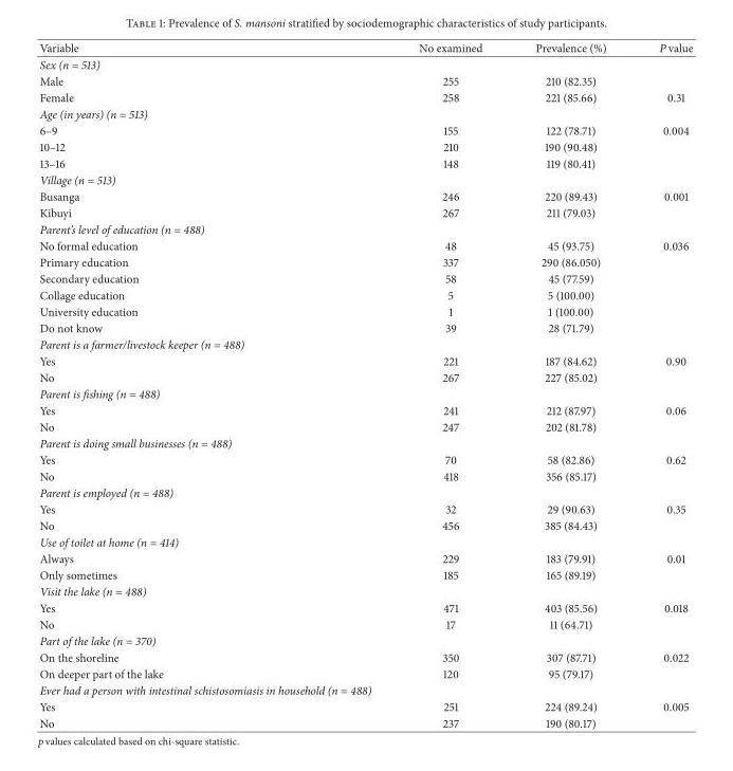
<table><thead><tr><td>Variable</td><td>No examined</td><td>Prevalence (%)</td><td>P value</td></tr></thead><tbody><tr><td colspan="4">Sex (n = 513)</td></tr><tr><td>Male</td><td>255</td><td>210 (82.35)</td><td></td></tr><tr><td>Female</td><td>258</td><td>221 (85.66)</td><td>0.31</td></tr><tr><td colspan="4">Age (in years) (n = 513)</td></tr><tr><td>6–9</td><td>155</td><td>122 (78.71)</td><td>0.004</td></tr><tr><td>10–12</td><td>210</td><td>190 (90.48)</td><td></td></tr><tr><td>13–16</td><td>148</td><td>119 (80.41)</td><td></td></tr><tr><td colspan="4">Village (n = 513)</td></tr><tr><td>Busanga</td><td>246</td><td>220 (89.43)</td><td>0.001</td></tr><tr><td>Kibuyi</td><td>267</td><td>211 (79.03)</td><td></td></tr><tr><td colspan="4">Parent’s level of education (n = 488)</td></tr><tr><td>No formal education</td><td>48</td><td>45 (93.75)</td><td>0.036</td></tr><tr><td>Primary education</td><td>337</td><td>290 (86.050)</td><td></td></tr><tr><td>Secondary education</td><td>58</td><td>45 (77.59)</td><td></td></tr><tr><td>Collage education</td><td>5</td><td>5 (100.00)</td><td></td></tr><tr><td>University education</td><td>1</td><td>1 (100.00)</td><td></td></tr><tr><td>Do not know</td><td>39</td><td>28 (71.79)</td><td></td></tr><tr><td colspan="4">Parent is a farmer/livestock keeper (n = 488)</td></tr><tr><td>Yes</td><td>221</td><td>187 (84.62)</td><td>0.90</td></tr><tr><td>No</td><td>267</td><td>227 (85.02)</td><td></td></tr><tr><td colspan="4">Parent is fishing (n = 488)</td></tr><tr><td>Yes</td><td>241</td><td>212 (87.97)</td><td>0.06</td></tr><tr><td>No</td><td>247</td><td>202 (81.78)</td><td></td></tr><tr><td colspan="4">Parent is doing small businesses (n = 488)</td></tr><tr><td>Yes</td><td>70</td><td>58 (82.86)</td><td>0.62</td></tr><tr><td>No</td><td>418</td><td>356 (85.17)</td><td></td></tr><tr><td colspan="4">Parent is employed (n = 488)</td></tr><tr><td>Yes</td><td>32</td><td>29 (90.63)</td><td>0.35</td></tr><tr><td>No</td><td>456</td><td>385 (84.43)</td><td></td></tr><tr><td colspan="4">Use of toilet at home (n = 414)</td></tr><tr><td>Always</td><td>229</td><td>183 (79.91)</td><td>0.01</td></tr><tr><td>Only sometimes</td><td>185</td><td>165 (89.19)</td><td></td></tr><tr><td colspan="4">Visit the lake (n = 488)</td></tr><tr><td>Yes</td><td>471</td><td>403 (85.56)</td><td>0.018</td></tr><tr><td>No</td><td>17</td><td>11 (64.71)</td><td></td></tr><tr><td colspan="4">Part of the lake (n = 370)</td></tr><tr><td>On the shoreline</td><td>350</td><td>307 (87.71)</td><td>0.022</td></tr><tr><td>On deeper part of the lake</td><td>120</td><td>95 (79.17)</td><td></td></tr><tr><td colspan="4">Ever had a person with intestinal schistosomiasis in household (n = 488)</td></tr><tr><td>Yes</td><td>251</td><td>224 (89.24)</td><td>0.005</td></tr><tr><td>No</td><td>237</td><td>190 (80.17)</td><td></td></tr></tbody></table>